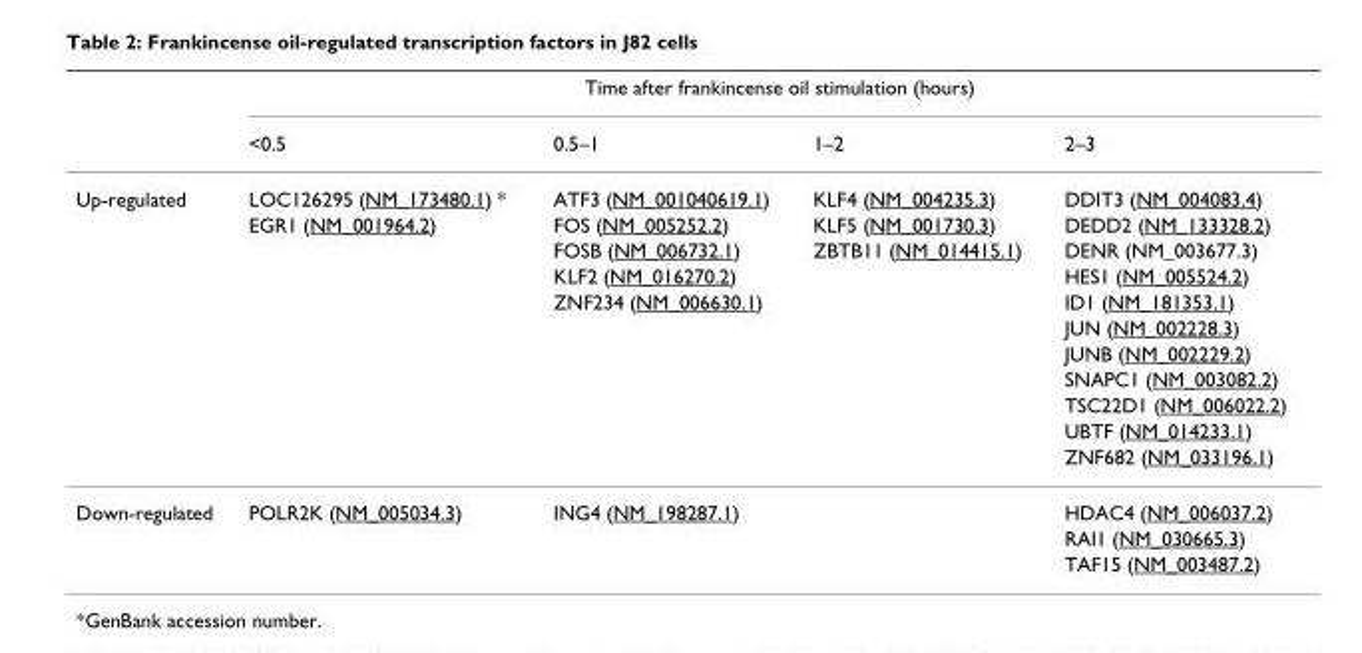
<table><thead><tr><td rowspan="2"></td><td colspan="4">Time after frankincense oil stimulation (hours)</td></tr><tr><td>&lt;0.5</td><td>0.5–1</td><td>1–2</td><td>2–3</td></tr></thead><tbody><tr><td rowspan="11">Up-regulated</td><td>LOC126295 (NM_173480.1) *</td><td>ATF3 (NM_001040619.1)</td><td>KLF4 (NM_004235.3)</td><td>DDIT3 (NM_004083.4)</td></tr><tr><td>EGR1 (NM_001964.2)</td><td>FOS (NM_005252.2)</td><td>KLF5 (NM_001730.3)</td><td>DEDD2 (NM_133328.2)</td></tr><tr><td></td><td>FOSB (NM_006732.1)</td><td>ZBTB11 (NM_014415.1)</td><td>DENR (NM_003677.3)</td></tr><tr><td></td><td>KLF2 (NM_016270.2)</td><td></td><td>HES1 (NM_005524.2)</td></tr><tr><td></td><td>ZNF234 (NM_006630.1)</td><td></td><td>ID1 (NM_181353.1)</td></tr><tr><td></td><td></td><td></td><td>JUN (NM_002228.3)</td></tr><tr><td></td><td></td><td></td><td>JUNB (NM_002229.2)</td></tr><tr><td></td><td></td><td></td><td>SNAPC1 (NM_003082.2)</td></tr><tr><td></td><td></td><td></td><td>TSC22D1 (NM_006022.2)</td></tr><tr><td></td><td></td><td></td><td>UBTF (NM_014233.1)</td></tr><tr><td></td><td></td><td></td><td>ZNF682 (NM_033196.1)</td></tr><tr><td rowspan="3">Down-regulated</td><td>POLR2K (NM_005034.3)</td><td>ING4 (NM_198287.1)</td><td></td><td>HDAC4 (NM_006037.2)</td></tr><tr><td></td><td></td><td></td><td>RAI1 (NM_030665.3)</td></tr><tr><td></td><td></td><td></td><td>TAF15 (NM_003487.2)</td></tr></tbody></table>